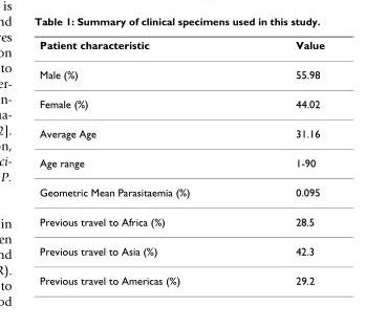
<table><thead><tr><td>Patient characteristic</td><td>Value</td></tr></thead><tbody><tr><td>Male (%)</td><td>55.98</td></tr><tr><td>Female (%)</td><td>44.02</td></tr><tr><td>Average Age</td><td>31.16</td></tr><tr><td>Age range</td><td>1-90</td></tr><tr><td>Geometric Mean Parasitaemia (%)</td><td>0.095</td></tr><tr><td>Previous travel to Africa (%)</td><td>28.5</td></tr><tr><td>Previous travel to Asia (%)</td><td>42.3</td></tr><tr><td>Previous travel to Americas (%)</td><td>29.2</td></tr></tbody></table>